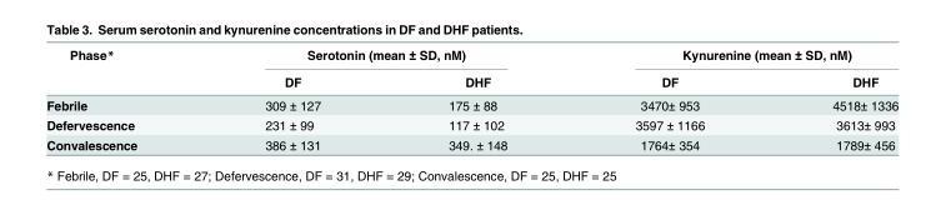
<table><thead><tr><td rowspan="2">Phase*</td><td colspan="2">Serotonin (mean ± SD, nM)</td><td colspan="2">Kynurenine (mean ± SD, nM)</td></tr><tr><td>DF</td><td>DHF</td><td>DF</td><td>DHF</td></tr></thead><tbody><tr><td>Febrile</td><td>309 ± 127</td><td>175 ± 88</td><td>3470± 953</td><td>4518± 1336</td></tr><tr><td>Defervescence</td><td>231 ± 99</td><td>117 ± 102</td><td>3597 ± 1166</td><td>3613± 993</td></tr><tr><td>Convalescence</td><td>386 ± 131</td><td>349. ± 148</td><td>1764± 354</td><td>1789± 456</td></tr></tbody></table>